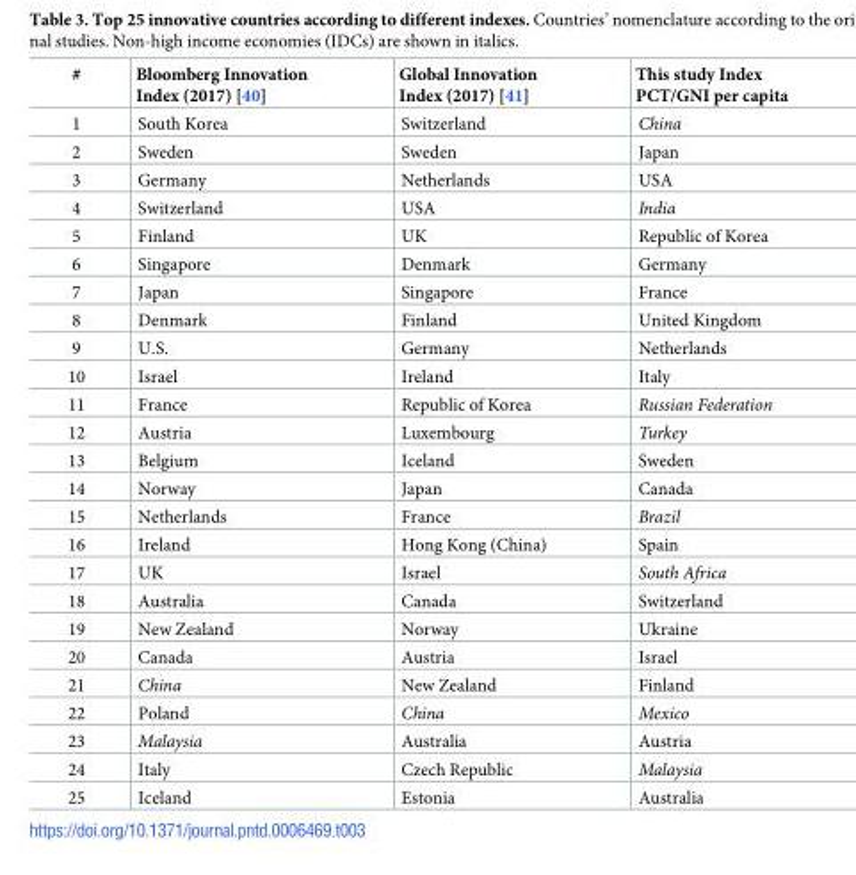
<table><thead><tr><td>#</td><td>Bloomberg Innovation Index (2017) [40]</td><td>Global Innovation Index (2017) [41]</td><td>This study Index PCT/GNI per capita</td></tr></thead><tbody><tr><td>1</td><td>South Korea</td><td>Switzerland</td><td>China</td></tr><tr><td>2</td><td>Sweden</td><td>Sweden</td><td>Japan</td></tr><tr><td>3</td><td>Germany</td><td>Netherlands</td><td>USA</td></tr><tr><td>4</td><td>Switzerland</td><td>USA</td><td>India</td></tr><tr><td>5</td><td>Finland</td><td>UK</td><td>Republic of Korea</td></tr><tr><td>6</td><td>Singapore</td><td>Denmark</td><td>Germany</td></tr><tr><td>7</td><td>Japan</td><td>Singapore</td><td>France</td></tr><tr><td>8</td><td>Denmark</td><td>Finland</td><td>United Kingdom</td></tr><tr><td>9</td><td>U.S.</td><td>Germany</td><td>Netherlands</td></tr><tr><td>10</td><td>Israel</td><td>Ireland</td><td>Italy</td></tr><tr><td>11</td><td>France</td><td>Republic of Korea</td><td>Russian Federation</td></tr><tr><td>12</td><td>Austria</td><td>Luxembourg</td><td>Turkey</td></tr><tr><td>13</td><td>Belgium</td><td>Iceland</td><td>Sweden</td></tr><tr><td>14</td><td>Norway</td><td>Japan</td><td>Canada</td></tr><tr><td>15</td><td>Netherlands</td><td>France</td><td>Brazil</td></tr><tr><td>16</td><td>Ireland</td><td>Hong Kong (China)</td><td>Spain</td></tr><tr><td>17</td><td>UK</td><td>Israel</td><td>South Africa</td></tr><tr><td>18</td><td>Australia</td><td>Canada</td><td>Switzerland</td></tr><tr><td>19</td><td>New Zealand</td><td>Norway</td><td>Ukraine</td></tr><tr><td>20</td><td>Canada</td><td>Austria</td><td>Israel</td></tr><tr><td>21</td><td>China</td><td>New Zealand</td><td>Finland</td></tr><tr><td>22</td><td>Poland</td><td>China</td><td>Mexico</td></tr><tr><td>23</td><td>Malaysia</td><td>Australia</td><td>Austria</td></tr><tr><td>24</td><td>Italy</td><td>Czech Republic</td><td>Malaysia</td></tr><tr><td>25</td><td>Iceland</td><td>Estonia</td><td>Australia</td></tr></tbody></table>